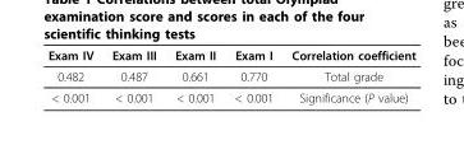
<table><thead><tr><td>Exam IV</td><td>Exam III</td><td>Exam II</td><td>Exam I</td><td>Correlation coefficient</td></tr></thead><tbody><tr><td>0.482</td><td>0.487</td><td>0.661</td><td>0.770</td><td>Total grade</td></tr><tr><td>&lt; 0.001</td><td>&lt; 0.001</td><td>&lt; 0.001</td><td>&lt; 0.001</td><td>Significance (P value)</td></tr></tbody></table>